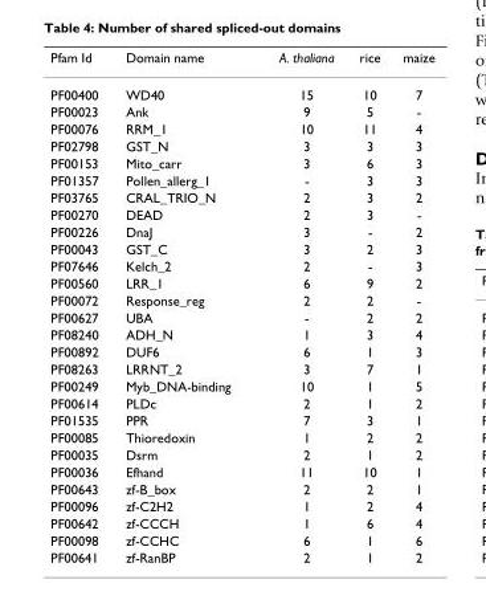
<table><thead><tr><td>Pfam Id</td><td>Domain name</td><td>A. thaliana</td><td>rice</td><td>maize</td></tr></thead><tbody><tr><td>PF00400</td><td>WD40</td><td>15</td><td>10</td><td>7</td></tr><tr><td>PF00023</td><td>Ank</td><td>9</td><td>5</td><td>-</td></tr><tr><td>PF00076</td><td>RRM_1</td><td>10</td><td>11</td><td>4</td></tr><tr><td>PF02798</td><td>GST_N</td><td>3</td><td>3</td><td>3</td></tr><tr><td>PF00153</td><td>Mito_carr</td><td>3</td><td>6</td><td>3</td></tr><tr><td>PF01357</td><td>Pollen_allerg_1</td><td>-</td><td>3</td><td>3</td></tr><tr><td>PF03765</td><td>CRAL_TRIO_N</td><td>2</td><td>3</td><td>2</td></tr><tr><td>PF00270</td><td>DEAD</td><td>2</td><td>3</td><td>-</td></tr><tr><td>PF00226</td><td>DnaJ</td><td>3</td><td>-</td><td>2</td></tr><tr><td>PF00043</td><td>GST_C</td><td>3</td><td>2</td><td>3</td></tr><tr><td>PF07646</td><td>Kelch_2</td><td>2</td><td>-</td><td>3</td></tr><tr><td>PF00560</td><td>LRR_1</td><td>6</td><td>9</td><td>2</td></tr><tr><td>PF00072</td><td>Response_reg</td><td>2</td><td>2</td><td>-</td></tr><tr><td>PF00627</td><td>UBA</td><td>-</td><td>2</td><td>2</td></tr><tr><td>PF08240</td><td>ADH_N</td><td>1</td><td>3</td><td>4</td></tr><tr><td>PF00892</td><td>DUF6</td><td>6</td><td>1</td><td>3</td></tr><tr><td>PF08263</td><td>LRRNT_2</td><td>3</td><td>7</td><td>1</td></tr><tr><td>PF00249</td><td>Myb_DNA-binding</td><td>10</td><td>1</td><td>5</td></tr><tr><td>PF00614</td><td>PLDc</td><td>2</td><td>1</td><td>2</td></tr><tr><td>PF01535</td><td>PPR</td><td>7</td><td>3</td><td>1</td></tr><tr><td>PF00085</td><td>Thioredoxin</td><td>1</td><td>2</td><td>2</td></tr><tr><td>PF00035</td><td>Dsrm</td><td>2</td><td>1</td><td>2</td></tr><tr><td>PF00036</td><td>Efhand</td><td>11</td><td>10</td><td>1</td></tr><tr><td>PF00643</td><td>zf-B_box</td><td>2</td><td>2</td><td>1</td></tr><tr><td>PF00096</td><td>zf-C2H2</td><td>1</td><td>2</td><td>4</td></tr><tr><td>PF00642</td><td>zf-CCCH</td><td>1</td><td>6</td><td>4</td></tr><tr><td>PF00098</td><td>zf-CCHC</td><td>6</td><td>1</td><td>6</td></tr><tr><td>PF00641</td><td>zf-RanBP</td><td>2</td><td>1</td><td>2</td></tr></tbody></table>